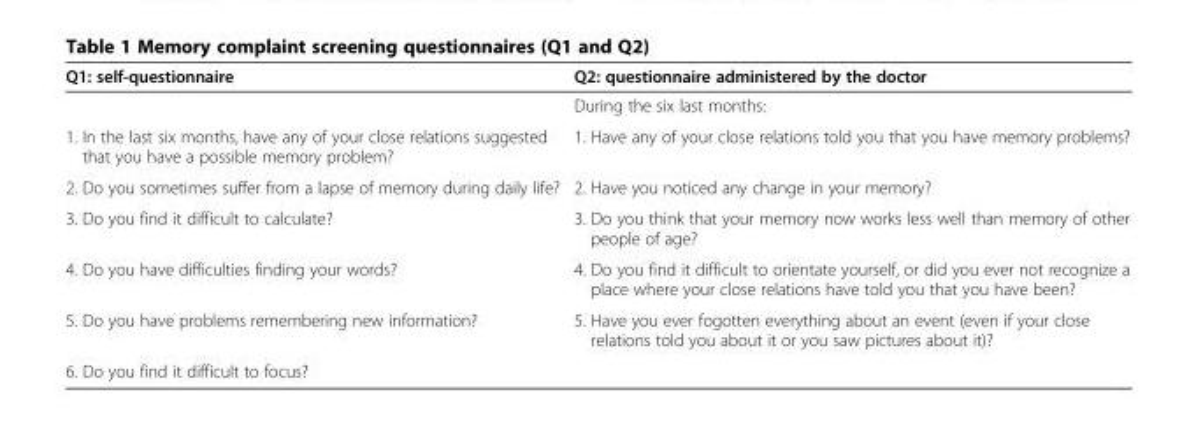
<table><thead><tr><td>Q1: self-questionnaire</td><td>Q2: questionnaire administered by the doctor</td></tr></thead><tbody><tr><td></td><td>During the six last months:</td></tr><tr><td>1. In the last six months, have any of your close relations suggested that you have a possible memory problem?</td><td>1. Have any of your close relations told you that you have memory problems?</td></tr><tr><td>2. Do you sometimes suffer from a lapse of memory during daily life?</td><td>2. Have you noticed any change in your memory?</td></tr><tr><td>3. Do you find it difficult to calculate?</td><td>3. Do you think that your memory now works less well than memory of other people of age?</td></tr><tr><td>4. Do you have difficulties finding your words?</td><td>4. Do you find it difficult to orientate yourself, or did you ever not recognize a place where your close relations have told you that you have been?</td></tr><tr><td>5. Do you have problems remembering new information?</td><td>5. Have you ever fogotten everything about an event (even if your close relations told you about it or you saw pictures about it)?</td></tr><tr><td>6. Do you find it difficult to focus?</td><td></td></tr></tbody></table>